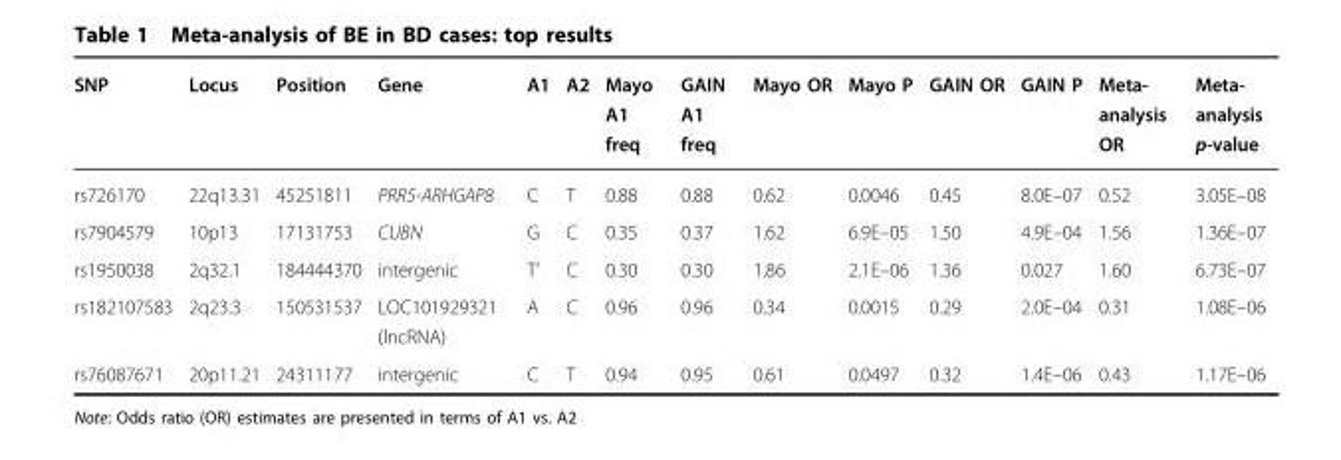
<table><thead><tr><td>SNP</td><td>Locus</td><td>Position</td><td>Gene</td><td>A1</td><td>A2</td><td>Mayo A1 freq</td><td>GAIN A1 freq</td><td>Mayo OR</td><td>Mayo P</td><td>GAIN OR</td><td>GAIN P</td><td>Meta- analysis OR</td><td>Meta- analysis p-value</td></tr></thead><tbody><tr><td>rs726170</td><td>22q13.31</td><td>45251811</td><td>PRR5-ARHGAP8</td><td>C</td><td>T</td><td>0.88</td><td>0.88</td><td>0.62</td><td>0.0046</td><td>0.45</td><td>8.0E–07</td><td>0.52</td><td>3.05E–08</td></tr><tr><td>rs7904579</td><td>10p13</td><td>17131753</td><td>CUBN</td><td>G</td><td>C</td><td>0.35</td><td>0.37</td><td>1.62</td><td>6.9E–05</td><td>1.50</td><td>4.9E–04</td><td>1.56</td><td>1.36E–07</td></tr><tr><td>rs1950038</td><td>2q32.1</td><td>184444370</td><td>intergenic</td><td>T‘</td><td>C</td><td>0.30</td><td>0.30</td><td>1.86</td><td>2.1E–06</td><td>1.36</td><td>0.027</td><td>1.60</td><td>6.73E–07</td></tr><tr><td>rs182107583</td><td>2q23.3</td><td>150531537</td><td>LOC101929321 (lncRNA)</td><td>A</td><td>C</td><td>0.96</td><td>0.96</td><td>0.34</td><td>0.0015</td><td>0.29</td><td>2.0E–04</td><td>0.31</td><td>1.08E–06</td></tr><tr><td>rs76087671</td><td>20p11.21</td><td>24311177</td><td>intergenic</td><td>C</td><td>T</td><td>0.94</td><td>0.95</td><td>0.61</td><td>0.0497</td><td>0.32</td><td>1.4E–06</td><td>0.43</td><td>1.17E–06</td></tr></tbody></table>